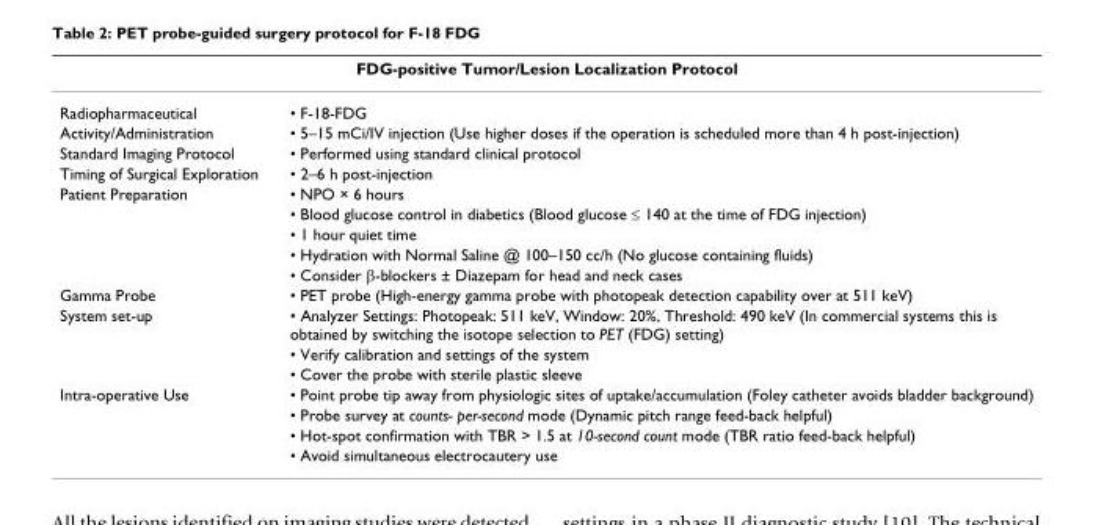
<table><thead><tr><td colspan="2">FDG-positive Tumor/Lesion Localization Protocol</td></tr><tr><td>Radiopharmaceutical</td><td>• F-18-FDG</td></tr></thead><tbody><tr><td>Activity/Administration</td><td>• 5–15 mCi/IV injection (Use higher doses if the operation is scheduled more than 4 h post-injection)</td></tr><tr><td>Standard Imaging Protocol</td><td>• Performed using standard clinical protocol</td></tr><tr><td>Timing of Surgical Exploration</td><td>• 2–6 h post-injection</td></tr><tr><td rowspan="5">Patient Preparation</td><td>• NPO × 6 hours</td></tr><tr><td>• Blood glucose control in diabetics (Blood glucose ≤ 140 at the time of FDG injection)</td></tr><tr><td>• 1 hour quiet time</td></tr><tr><td>• Hydration with Normal Saline @ 100–150 cc/h (No glucose containing fluids)</td></tr><tr><td>• Consider β-blockers ± Diazepam for head and neck cases</td></tr><tr><td>Gamma Probe</td><td>• PET probe (High-energy gamma probe with photopeak detection capability over at 511 keV)</td></tr><tr><td rowspan="3">System set-up</td><td>• Analyzer Settings: Photopeak: 511 keV, Window: 20%, Threshold: 490 keV (In commercial systems this is obtained by switching the isotope selection to PET (FDG) setting)</td></tr><tr><td>• Verify calibration and settings of the system</td></tr><tr><td>• Cover the probe with sterile plastic sleeve</td></tr><tr><td rowspan="4">Intra-operative Use</td><td>• Point probe tip away from physiologic sites of uptake/accumulation (Foley catheter avoids bladder background)</td></tr><tr><td>• Probe survey at counts- per-second mode (Dynamic pitch range feed-back helpful)</td></tr><tr><td>• Hot-spot confirmation with TBR &gt; 1.5 at 10-second count mode (TBR ratio feed-back helpful)</td></tr><tr><td>• Avoid simultaneous electrocautery use</td></tr></tbody></table>